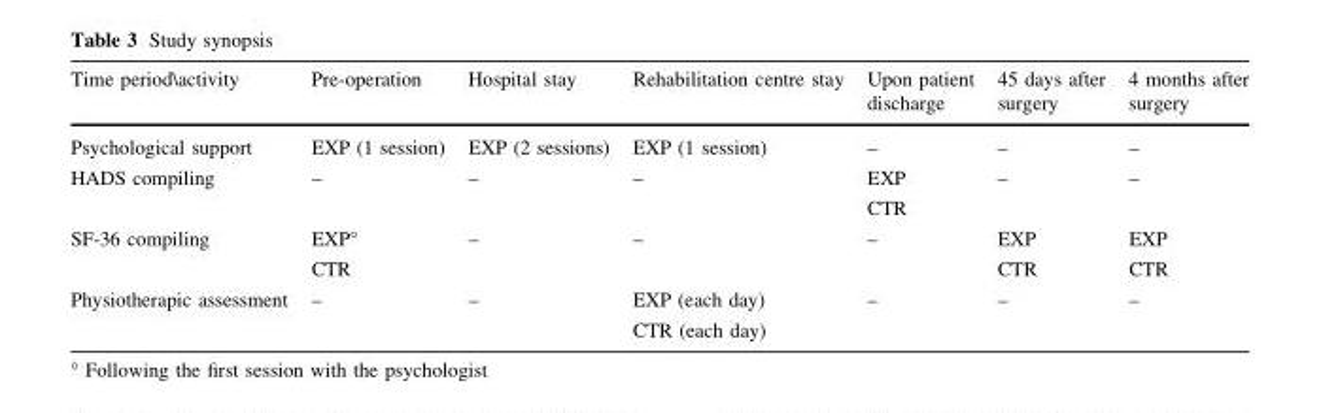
<table><thead><tr><td>Time period\activity</td><td>Pre-operation</td><td>Hospital stay</td><td>Rehabilitation centre stay</td><td>Upon patient discharge</td><td>45 days after surgery</td><td>4 months after surgery</td></tr></thead><tbody><tr><td>Psychological support</td><td>EXP (1 session)</td><td>EXP (2 sessions)</td><td>EXP (1 session)</td><td>–</td><td>–</td><td>–</td></tr><tr><td rowspan="2">HADS compiling</td><td rowspan="2">–</td><td rowspan="2">–</td><td rowspan="2">–</td><td>EXP</td><td rowspan="2">–</td><td rowspan="2">–</td></tr><tr><td>CTR</td></tr><tr><td rowspan="2">SF-36 compiling</td><td>EXP°</td><td rowspan="2">–</td><td rowspan="2">–</td><td rowspan="2">–</td><td>EXP</td><td>EXP</td></tr><tr><td>CTR</td><td>CTR</td><td>CTR</td></tr><tr><td rowspan="2">Physiotherapic assessment</td><td rowspan="2">–</td><td rowspan="2">–</td><td>EXP (each day)</td><td rowspan="2">–</td><td rowspan="2">–</td><td rowspan="2">–</td></tr><tr><td>CTR (each day)</td></tr></tbody></table>